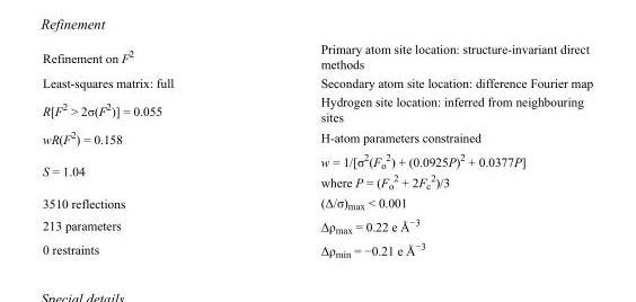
<table><tbody><tr><td>Refinement on F<sup>2</sup></td><td>Primary atom site location: structure-invariant direct methods</td></tr><tr><td>Least-squares matrix: full</td><td>Secondary atom site location: difference Fourier map</td></tr><tr><td>R[F<sup>2</sup> &gt; 2σ(F<sup>2</sup>)] = 0.055</td><td>Hydrogen site location: inferred from neighbouring sites</td></tr><tr><td>wR(F<sup>2</sup>) = 0.158</td><td>H-atom parameters constrained</td></tr><tr><td>S = 1.04</td><td>w = 1/[σ<sup>2</sup>(F<sub>o</sub> <sup>2</sup>) + (0.0925P)<sup>2</sup> + 0.0377P] where P = (F<sub>o</sub> <sup>2</sup> + 2F<sub>c</sub> <sup>2</sup>)/3</td></tr><tr><td>3510 reflections</td><td>(Δ/σ)<sub>max</sub> &lt; 0.001</td></tr><tr><td>213 parameters</td><td>Δρ<sub>max</sub> = 0.22 e Å<sup>−3</sup></td></tr><tr><td>0 restraints</td><td>Δρ<sub>min</sub> = −0.21 e Å<sup>−3</sup></td></tr></tbody></table>